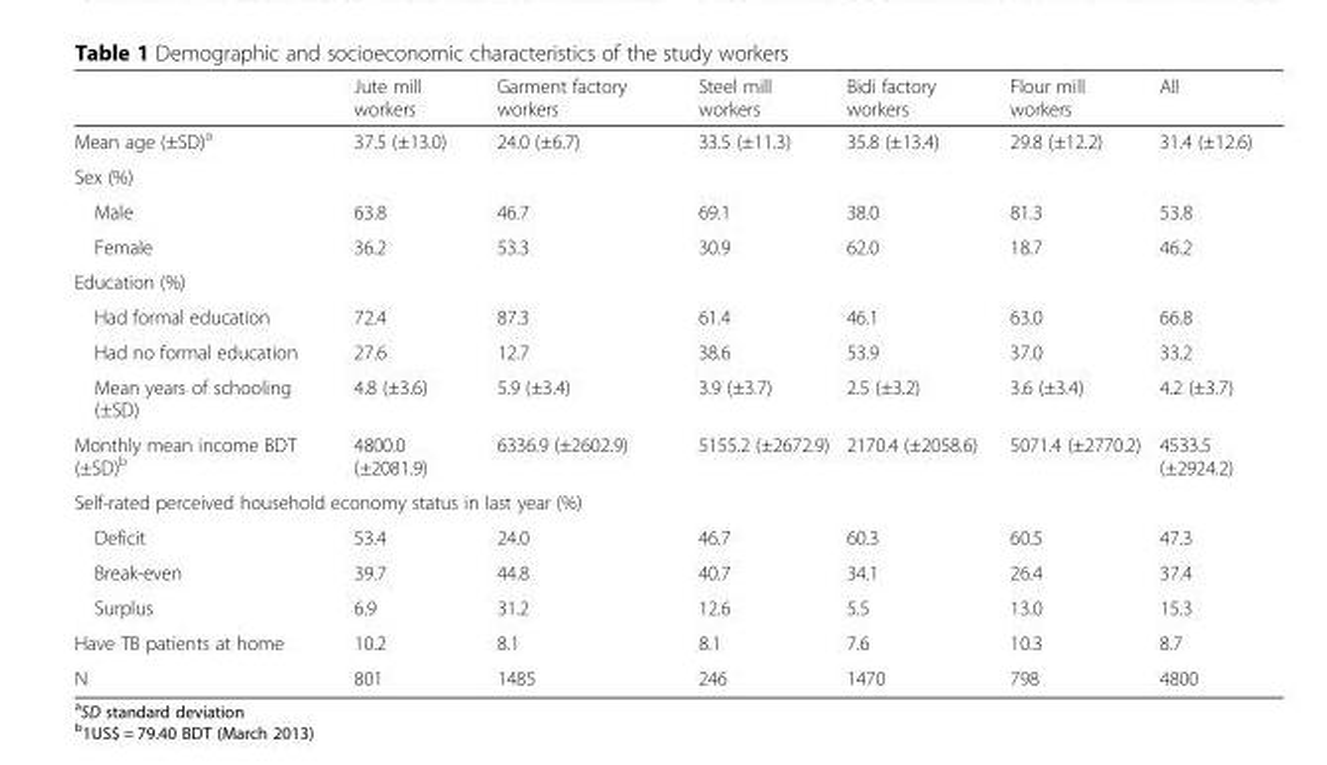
<table><thead><tr><td></td><td>Jute mill workers</td><td>Garment factory workers</td><td>Steel mill workers</td><td>Bidi factory workers</td><td>Flour mill workers</td><td>All</td></tr></thead><tbody><tr><td>Mean age (±SD)<sup>a</sup></td><td>37.5 (±13.0)</td><td>24.0 (±6.7)</td><td>33.5 (±11.3)</td><td>35.8 (±13.4)</td><td>29.8 (±12.2)</td><td>31.4 (±12.6)</td></tr><tr><td colspan="7">Sex (%)</td></tr><tr><td>Male</td><td>63.8</td><td>46.7</td><td>69.1</td><td>38.0</td><td>81.3</td><td>53.8</td></tr><tr><td>Female</td><td>36.2</td><td>53.3</td><td>30.9</td><td>62.0</td><td>18.7</td><td>46.2</td></tr><tr><td colspan="7">Education (%)</td></tr><tr><td>Had formal education</td><td>72.4</td><td>87.3</td><td>61.4</td><td>46.1</td><td>63.0</td><td>66.8</td></tr><tr><td>Had no formal education</td><td>27.6</td><td>12.7</td><td>38.6</td><td>53.9</td><td>37.0</td><td>33.2</td></tr><tr><td>Mean years of schooling (±SD)</td><td>4.8 (±3.6)</td><td>5.9 (±3.4)</td><td>3.9 (±3.7)</td><td>2.5 (±3.2)</td><td>3.6 (±3.4)</td><td>4.2 (±3.7)</td></tr><tr><td>Monthly mean income BDT (±SD)<sup>b</sup></td><td>4800.0 (±2081.9)</td><td>6336.9 (±2602.9)</td><td>5155.2 (±2672.9)</td><td>2170.4 (±2058.6)</td><td>5071.4 (±2770.2)</td><td>4533.5 (±2924.2)</td></tr><tr><td colspan="7">Self-rated perceived household economy status in last year (%)</td></tr><tr><td>Deficit</td><td>53.4</td><td>24.0</td><td>46.7</td><td>60.3</td><td>60.5</td><td>47.3</td></tr><tr><td>Break-even</td><td>39.7</td><td>44.8</td><td>40.7</td><td>34.1</td><td>26.4</td><td>37.4</td></tr><tr><td>Surplus</td><td>6.9</td><td>31.2</td><td>12.6</td><td>5.5</td><td>13.0</td><td>15.3</td></tr><tr><td>Have TB patients at home</td><td>10.2</td><td>8.1</td><td>8.1</td><td>7.6</td><td>10.3</td><td>8.7</td></tr><tr><td>N</td><td>801</td><td>1485</td><td>246</td><td>1470</td><td>798</td><td>4800</td></tr></tbody></table>